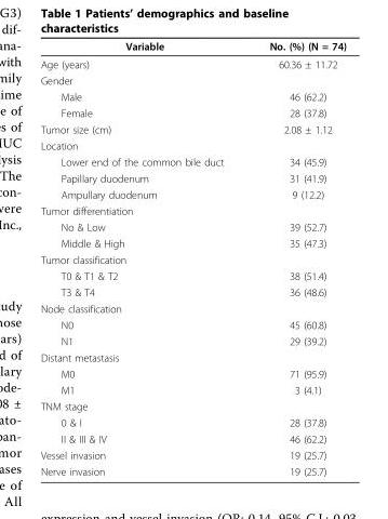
<table><thead><tr><td>Variable</td><td>No. (%) (N = 74)</td></tr></thead><tbody><tr><td>Age (years)</td><td>60.36 ± 11.72</td></tr><tr><td colspan="2">Gender</td></tr><tr><td>Male</td><td>46 (62.2)</td></tr><tr><td>Female</td><td>28 (37.8)</td></tr><tr><td>Tumor size (cm)</td><td>2.08 ± 1.12</td></tr><tr><td colspan="2">Location</td></tr><tr><td>Lower end of the common bile duct</td><td>34 (45.9)</td></tr><tr><td>Papillary duodenum</td><td>31 (41.9)</td></tr><tr><td>Ampullary duodenum</td><td>9 (12.2)</td></tr><tr><td colspan="2">Tumor differentiation</td></tr><tr><td>No &amp; Low</td><td>39 (52.7)</td></tr><tr><td>Middle &amp; High</td><td>35 (47.3)</td></tr><tr><td colspan="2">Tumor classification</td></tr><tr><td>T0 &amp; T1 &amp; T2</td><td>38 (51.4)</td></tr><tr><td>T3 &amp; T4</td><td>36 (48.6)</td></tr><tr><td colspan="2">Node classification</td></tr><tr><td>N0</td><td>45 (60.8)</td></tr><tr><td>N1</td><td>29 (39.2)</td></tr><tr><td colspan="2">Distant metastasis</td></tr><tr><td>M0</td><td>71 (95.9)</td></tr><tr><td>M1</td><td>3 (4.1)</td></tr><tr><td colspan="2">TNM stage</td></tr><tr><td>0 &amp; I</td><td>28 (37.8)</td></tr><tr><td>II &amp; III &amp; IV</td><td>46 (62.2)</td></tr><tr><td>Vessel invasion</td><td>19 (25.7)</td></tr><tr><td>Nerve invasion</td><td>19 (25.7)</td></tr></tbody></table>